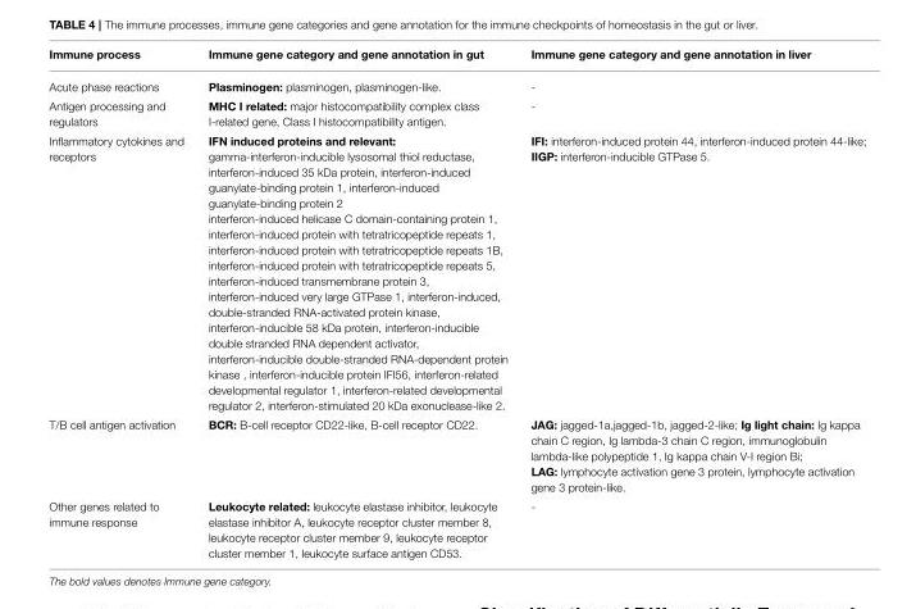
<table><thead><tr><td>Immune process</td><td>Immune gene category and gene annotation in gut</td><td>Immune gene category and gene annotation in liver</td></tr></thead><tbody><tr><td>Acute phase reactions</td><td>Plasminogen: plasminogen, plasminogen-like.</td><td>-</td></tr><tr><td>Antigen processing and regulators</td><td>MHC I related: major histocompatibility complex class I-related gene, Class I histocompatibility antigen.</td><td>-</td></tr><tr><td>Inflammatory cytokines and receptors</td><td>IFN induced proteins and relevant: gamma-interferon-inducible lysosomal thiol reductase, interferon-induced 35 kDa protein, interferon-induced guanylate-binding protein 1, interferon-induced guanylate-binding protein 2 interferon-induced helicase C domain-containing protein 1, interferon-induced protein with tetratricopeptide repeats 1, interferon-induced protein with tetratricopeptide repeats 1B, interferon-induced protein with tetratricopeptide repeats 5, interferon-induced transmembrane protein 3, interferon-induced very large GTPase 1, interferon-induced, double-stranded RNA-activated protein kinase, interferon-inducible 58 kDa protein, interferon-inducible double stranded RNA dependent activator, interferon-inducible double-stranded RNA-dependent protein kinase , interferon-inducible protein IFI56, interferon-related developmental regulator 1, interferon-related developmental regulator 2, interferon-stimulated 20 kDa exonuclease-like 2.</td><td>IFI: interferon-induced protein 44, interferon-induced protein 44-like; IIGP: interferon-inducible GTPase 5.</td></tr><tr><td>T/B cell antigen activation</td><td>BCR: B-cell receptor CD22-like, B-cell receptor CD22.</td><td>JAG: jagged-1a,jagged-1b, jagged-2-like; Ig light chain: Ig kappa chain C region, Ig lambda-3 chain C region, immunoglobulin lambda-like polypeptide 1, Ig kappa chain V-I region Bi; LAG: lymphocyte activation gene 3 protein, lymphocyte activation gene 3 protein-like.</td></tr><tr><td>Other genes related to immune response</td><td>Leukocyte related: leukocyte elastase inhibitor, leukocyte elastase inhibitor A, leukocyte receptor cluster member 8, leukocyte receptor cluster member 9, leukocyte receptor cluster member 1, leukocyte surface antigen CD53.</td><td>-</td></tr></tbody></table>